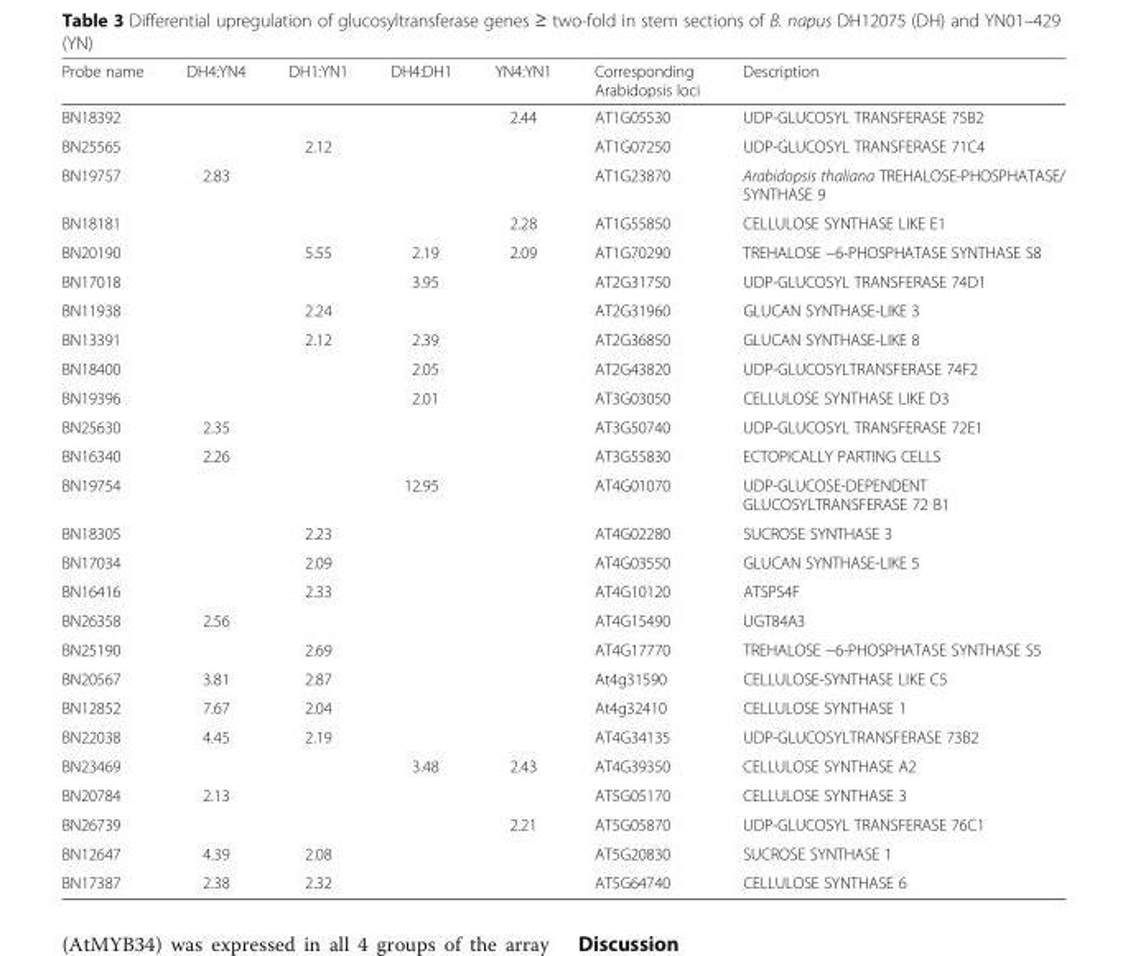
<table><thead><tr><td>Probe name</td><td>DH4:YN4</td><td>DH1:YN1</td><td>DH4:DH1</td><td>YN4:YN1</td><td>Corresponding Arabidopsis loci</td><td>Description</td></tr></thead><tbody><tr><td>BN18392</td><td></td><td></td><td></td><td>2.44</td><td>AT1G05530</td><td>UDP-GLUCOSYL TRANSFERASE 75B2</td></tr><tr><td>BN25565</td><td></td><td>2.12</td><td></td><td></td><td>AT1G07250</td><td>UDP-GLUCOSYL TRANSFERASE 71C4</td></tr><tr><td>BN19757</td><td>2.83</td><td></td><td></td><td></td><td>AT1G23870</td><td>Arabidopsis thaliana TREHALOSE-PHOSPHATASE/ SYNTHASE 9</td></tr><tr><td>BN18181</td><td></td><td></td><td></td><td>2.28</td><td>AT1G55850</td><td>CELLULOSE SYNTHASE LIKE E1</td></tr><tr><td>BN20190</td><td></td><td>5.55</td><td>2.19</td><td>2.09</td><td>AT1G70290</td><td>TREHALOSE −6-PHOSPHATASE SYNTHASE S8</td></tr><tr><td>BN17018</td><td></td><td></td><td>3.95</td><td></td><td>AT2G31750</td><td>UDP-GLUCOSYL TRANSFERASE 74D1</td></tr><tr><td>BN11938</td><td></td><td>2.24</td><td></td><td></td><td>AT2G31960</td><td>GLUCAN SYNTHASE-LIKE 3</td></tr><tr><td>BN13391</td><td></td><td>2.12</td><td>2.39</td><td></td><td>AT2G36850</td><td>GLUCAN SYNTHASE-LIKE 8</td></tr><tr><td>BN18400</td><td></td><td></td><td>2.05</td><td></td><td>AT2G43820</td><td>UDP-GLUCOSYLTRANSFERASE 74F2</td></tr><tr><td>BN19396</td><td></td><td></td><td>2.01</td><td></td><td>AT3G03050</td><td>CELLULOSE SYNTHASE LIKE D3</td></tr><tr><td>BN25630</td><td>2.35</td><td></td><td></td><td></td><td>AT3G50740</td><td>UDP-GLUCOSYL TRANSFERASE 72E1</td></tr><tr><td>BN16340</td><td>2.26</td><td></td><td></td><td></td><td>AT3G55830</td><td>ECTOPICALLY PARTING CELLS</td></tr><tr><td>BN19754</td><td></td><td></td><td>12.95</td><td></td><td>AT4G01070</td><td>UDP-GLUCOSE-DEPENDENT GLUCOSYLTRANSFERASE 72 B1</td></tr><tr><td>BN18305</td><td></td><td>2.23</td><td></td><td></td><td>AT4G02280</td><td>SUCROSE SYNTHASE 3</td></tr><tr><td>BN17034</td><td></td><td>2.09</td><td></td><td></td><td>AT4G03550</td><td>GLUCAN SYNTHASE-LIKE 5</td></tr><tr><td>BN16416</td><td></td><td>2.33</td><td></td><td></td><td>AT4G10120</td><td>ATSPS4F</td></tr><tr><td>BN26358</td><td>2.56</td><td></td><td></td><td></td><td>AT4G15490</td><td>UGT84A3</td></tr><tr><td>BN25190</td><td></td><td>2.69</td><td></td><td></td><td>AT4G17770</td><td>TREHALOSE −6-PHOSPHATASE SYNTHASE S5</td></tr><tr><td>BN20567</td><td>3.81</td><td>2.87</td><td></td><td></td><td>At4g31590</td><td>CELLULOSE-SYNTHASE LIKE C5</td></tr><tr><td>BN12852</td><td>7.67</td><td>2.04</td><td></td><td></td><td>At4g32410</td><td>CELLULOSE SYNTHASE 1</td></tr><tr><td>BN22038</td><td>4.45</td><td>2.19</td><td></td><td></td><td>AT4G34135</td><td>UDP-GLUCOSYLTRANSFERASE 73B2</td></tr><tr><td>BN23469</td><td></td><td></td><td>3.48</td><td>2.43</td><td>AT4G39350</td><td>CELLULOSE SYNTHASE A2</td></tr><tr><td>BN20784</td><td>2.13</td><td></td><td></td><td></td><td>AT5G05170</td><td>CELLULOSE SYNTHASE 3</td></tr><tr><td>BN26739</td><td></td><td></td><td></td><td>2.21</td><td>AT5G05870</td><td>UDP-GLUCOSYL TRANSFERASE 76C1</td></tr><tr><td>BN12647</td><td>4.39</td><td>2.08</td><td></td><td></td><td>AT5G20830</td><td>SUCROSE SYNTHASE 1</td></tr><tr><td>BN17387</td><td>2.38</td><td>2.32</td><td></td><td></td><td>AT5G64740</td><td>CELLULOSE SYNTHASE 6</td></tr></tbody></table>